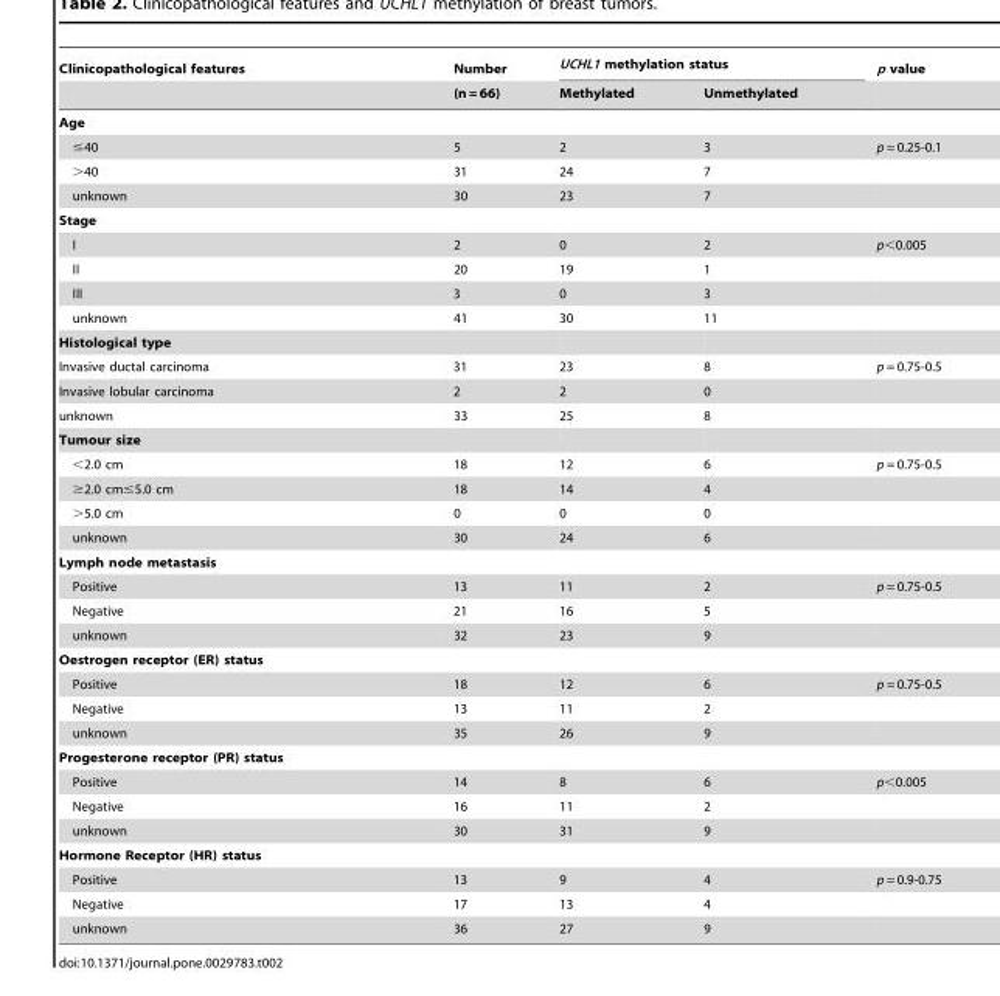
<table><thead><tr><td rowspan="2">Clinicopathological features</td><td rowspan="2">Number (n = 66)</td><td colspan="2">UCHL1 methylation status</td><td rowspan="2">p value</td></tr><tr><td>Methylated</td><td>Unmethylated</td></tr></thead><tbody><tr><td colspan="5">Age</td></tr><tr><td>≤40</td><td>5</td><td>2</td><td>3</td><td>p = 0.25-0.1</td></tr><tr><td>&gt;40</td><td>31</td><td>24</td><td>7</td><td></td></tr><tr><td>unknown</td><td>30</td><td>23</td><td>7</td><td></td></tr><tr><td colspan="5">Stage</td></tr><tr><td>I</td><td>2</td><td>0</td><td>2</td><td>p&lt;0.005</td></tr><tr><td>II</td><td>20</td><td>19</td><td>1</td><td></td></tr><tr><td>III</td><td>3</td><td>0</td><td>3</td><td></td></tr><tr><td>unknown</td><td>41</td><td>30</td><td>11</td><td></td></tr><tr><td colspan="5">Histological type</td></tr><tr><td>Invasive ductal carcinoma</td><td>31</td><td>23</td><td>8</td><td>p = 0.75-0.5</td></tr><tr><td>Invasive lobular carcinoma</td><td>2</td><td>2</td><td>0</td><td></td></tr><tr><td>unknown</td><td>33</td><td>25</td><td>8</td><td></td></tr><tr><td colspan="5">Tumour size</td></tr><tr><td>&lt;2.0 cm</td><td>18</td><td>12</td><td>6</td><td>p = 0.75-0.5</td></tr><tr><td>≥2.0 cm≤5.0 cm</td><td>18</td><td>14</td><td>4</td><td></td></tr><tr><td>&gt;5.0 cm</td><td>0</td><td>0</td><td>0</td><td></td></tr><tr><td>unknown</td><td>30</td><td>24</td><td>6</td><td></td></tr><tr><td colspan="5">Lymph node metastasis</td></tr><tr><td>Positive</td><td>13</td><td>11</td><td>2</td><td>p = 0.75-0.5</td></tr><tr><td>Negative</td><td>21</td><td>16</td><td>5</td><td></td></tr><tr><td>unknown</td><td>32</td><td>23</td><td>9</td><td></td></tr><tr><td colspan="5">Oestrogen receptor (ER) status</td></tr><tr><td>Positive</td><td>18</td><td>12</td><td>6</td><td>p = 0.75-0.5</td></tr><tr><td>Negative</td><td>13</td><td>11</td><td>2</td><td></td></tr><tr><td>unknown</td><td>35</td><td>26</td><td>9</td><td></td></tr><tr><td colspan="5">Progesterone receptor (PR) status</td></tr><tr><td>Positive</td><td>14</td><td>8</td><td>6</td><td>p&lt;0.005</td></tr><tr><td>Negative</td><td>16</td><td>11</td><td>2</td><td></td></tr><tr><td>unknown</td><td>30</td><td>31</td><td>9</td><td></td></tr><tr><td colspan="5">Hormone Receptor (HR) status</td></tr><tr><td>Positive</td><td>13</td><td>9</td><td>4</td><td>p = 0.9-0.75</td></tr><tr><td>Negative</td><td>17</td><td>13</td><td>4</td><td></td></tr><tr><td>unknown</td><td>36</td><td>27</td><td>9</td><td></td></tr></tbody></table>